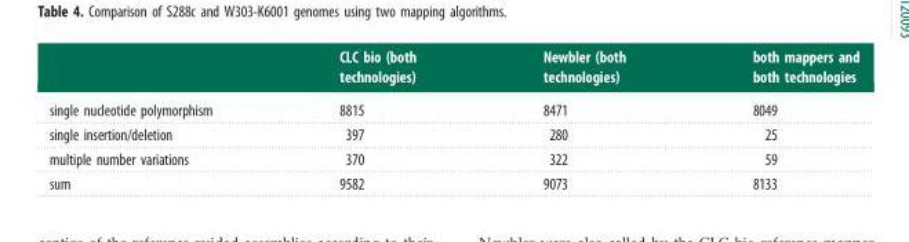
<table><thead><tr><td></td><td>CLC bio (both technologies)</td><td>Newbler (both technologies)</td><td>both mappers and both technologies</td></tr></thead><tbody><tr><td>single nucleotide polymorphism</td><td>8815</td><td>8471</td><td>8049</td></tr><tr><td>single insertion/deletion</td><td>397</td><td>280</td><td>25</td></tr><tr><td>multiple number variations</td><td>370</td><td>322</td><td>59</td></tr><tr><td>sum</td><td>9582</td><td>9073</td><td>8133</td></tr></tbody></table>